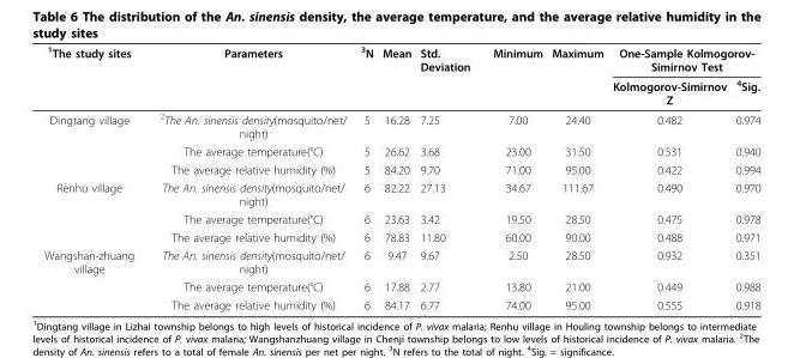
<table><thead><tr><td rowspan="2"><sup>1</sup>The study sites</td><td rowspan="2">Parameters</td><td rowspan="2"><sup>3</sup>N</td><td rowspan="2">Mean</td><td rowspan="2">Std. Deviation</td><td rowspan="2">Minimum</td><td rowspan="2">Maximum</td><td colspan="2">One-Sample Kolmogorov- Simirnov Test</td></tr><tr><td>Kolmogorov-Simirnov Z</td><td><sup>4</sup>Sig.</td></tr></thead><tbody><tr><td rowspan="3">Dingtang village</td><td><sup>2</sup>The An. sinensis density(mosquito/net/ night)</td><td>5</td><td>16.28</td><td>7.25</td><td>7.00</td><td>24.40</td><td>0.482</td><td>0.974</td></tr><tr><td>The average temperature(°C)</td><td>5</td><td>26.62</td><td>3.68</td><td>23.00</td><td>31.50</td><td>0.531</td><td>0.940</td></tr><tr><td>The average relative humidity (%)</td><td>5</td><td>84.20</td><td>9.70</td><td>71.00</td><td>95.00</td><td>0.422</td><td>0.994</td></tr><tr><td rowspan="3">Renhu village</td><td>The An. sinensis density(mosquito/net/ night)</td><td>6</td><td>82.22</td><td>27.13</td><td>34.67</td><td>111.67</td><td>0.490</td><td>0.970</td></tr><tr><td>The average temperature(°C)</td><td>6</td><td>23.63</td><td>3.42</td><td>19.50</td><td>28.50</td><td>0.475</td><td>0.978</td></tr><tr><td>The average relative humidity (%)</td><td>6</td><td>78.83</td><td>11.80</td><td>60.00</td><td>90.00</td><td>0.488</td><td>0.971</td></tr><tr><td rowspan="3">Wangshan-zhuang village</td><td>The An. sinensis density(mosquito/net/ night)</td><td>6</td><td>9.47</td><td>9.67</td><td>2.50</td><td>28.50</td><td>0.932</td><td>0.351</td></tr><tr><td>The average temperature(°C)</td><td>6</td><td>17.88</td><td>2.77</td><td>13.80</td><td>21.00</td><td>0.449</td><td>0.988</td></tr><tr><td>The average relative humidity (%)</td><td>6</td><td>84.17</td><td>6.77</td><td>74.00</td><td>95.00</td><td>0.555</td><td>0.918</td></tr></tbody></table>